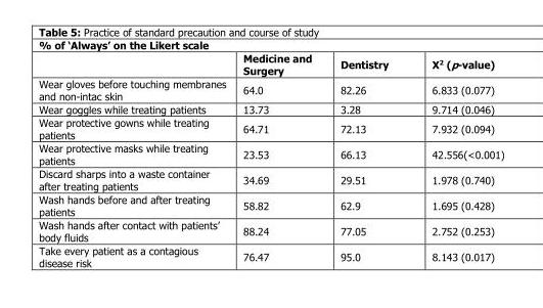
<table><thead><tr><td colspan="4">% of ‘Always’ on the Likert scale</td></tr><tr><td></td><td>Medicine and Surgery</td><td>Dentistry</td><td>X<sup>2</sup> (p-value)</td></tr></thead><tbody><tr><td>Wear gloves before touching membranes and non-intac skin</td><td>64.0</td><td>82.26</td><td>6.833 (0.077)</td></tr><tr><td>Wear goggles while treating patients</td><td>13.73</td><td>3.28</td><td>9.714 (0.046)</td></tr><tr><td>Wear protective gowns while treating patients</td><td>64.71</td><td>72.13</td><td>7.932 (0.094)</td></tr><tr><td>Wear protective masks while treating patients</td><td>23.53</td><td>66.13</td><td>42.556(&lt;0.001)</td></tr><tr><td>Discard sharps into a waste container after treating patients</td><td>34.69</td><td>29.51</td><td>1.978 (0.740)</td></tr><tr><td>Wash hands before and after treating patients</td><td>58.82</td><td>62.9</td><td>1.695 (0.428)</td></tr><tr><td>Wash hands after contact with patients’ body fluids</td><td>88.24</td><td>77.05</td><td>2.752 (0.253)</td></tr><tr><td>Take every patient as a contagious disease risk</td><td>76.47</td><td>95.0</td><td>8.143 (0.017)</td></tr></tbody></table>